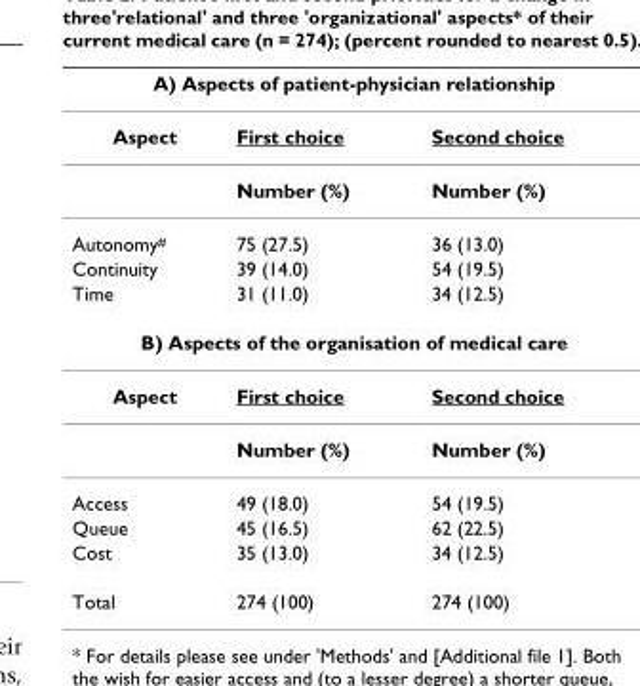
<table><thead><tr><td colspan="3">A) Aspects of patient-physician relationship</td></tr><tr><td>Aspect</td><td>First choice</td><td>Second choice</td></tr></thead><tbody><tr><td></td><td>Number (%)</td><td>Number (%)</td></tr><tr><td>Autonomy#</td><td>75 (27.5)</td><td>36 (13.0)</td></tr><tr><td>Continuity</td><td>39 (14.0)</td><td>54 (19.5)</td></tr><tr><td>Time</td><td>31 (11.0)</td><td>34 (12.5)</td></tr><tr><td colspan="3">B) Aspects of the organisation of medical care</td></tr><tr><td rowspan="2">Aspect</td><td>First choice</td><td>Second choice</td></tr><tr><td>Number (%)</td><td>Number (%)</td></tr><tr><td>Access</td><td>49 (18.0)</td><td>54 (19.5)</td></tr><tr><td>Queue</td><td>45 (16.5)</td><td>62 (22.5)</td></tr><tr><td>Cost</td><td>35 (13.0)</td><td>34 (12.5)</td></tr><tr><td>Total</td><td>274 (100)</td><td>274 (100)</td></tr></tbody></table>